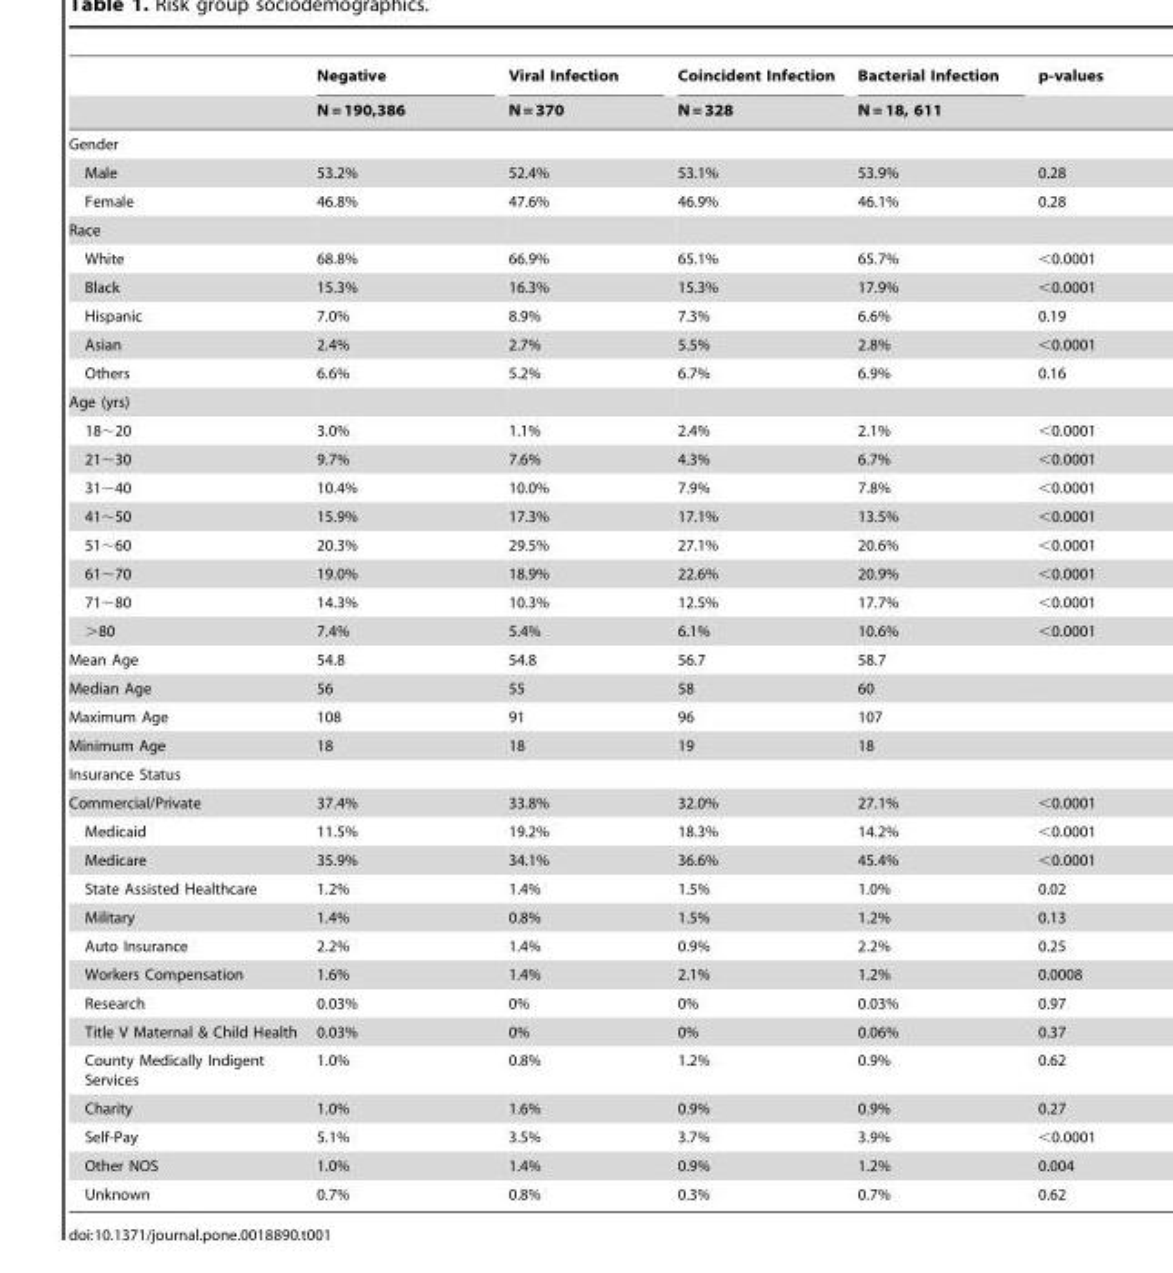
<table><thead><tr><td rowspan="2"></td><td rowspan="2">Negative N = 190,386</td><td rowspan="2">Viral Infection N = 370</td><td rowspan="2">Coincident Infection N = 328</td><td rowspan="2">Bacterial Infection N = 18, 611</td><td rowspan="2">p-values</td></tr><tr></tr></thead><tbody><tr><td colspan="6">Gender</td></tr><tr><td>Male</td><td>53.2%</td><td>52.4%</td><td>53.1%</td><td>53.9%</td><td>0.28</td></tr><tr><td>Female</td><td>46.8%</td><td>47.6%</td><td>46.9%</td><td>46.1%</td><td>0.28</td></tr><tr><td colspan="6">Race</td></tr><tr><td>White</td><td>68.8%</td><td>66.9%</td><td>65.1%</td><td>65.7%</td><td>&lt;0.0001</td></tr><tr><td>Black</td><td>15.3%</td><td>16.3%</td><td>15.3%</td><td>17.9%</td><td>&lt;0.0001</td></tr><tr><td>Hispanic</td><td>7.0%</td><td>8.9%</td><td>7.3%</td><td>6.6%</td><td>0.19</td></tr><tr><td>Asian</td><td>2.4%</td><td>2.7%</td><td>5.5%</td><td>2.8%</td><td>&lt;0.0001</td></tr><tr><td>Others</td><td>6.6%</td><td>5.2%</td><td>6.7%</td><td>6.9%</td><td>0.16</td></tr><tr><td colspan="6">Age (yrs)</td></tr><tr><td>18∼20</td><td>3.0%</td><td>1.1%</td><td>2.4%</td><td>2.1%</td><td>&lt;0.0001</td></tr><tr><td>21∼30</td><td>9.7%</td><td>7.6%</td><td>4.3%</td><td>6.7%</td><td>&lt;0.0001</td></tr><tr><td>31∼40</td><td>10.4%</td><td>10.0%</td><td>7.9%</td><td>7.8%</td><td>&lt;0.0001</td></tr><tr><td>41∼50</td><td>15.9%</td><td>17.3%</td><td>17.1%</td><td>13.5%</td><td>&lt;0.0001</td></tr><tr><td>51∼60</td><td>20.3%</td><td>29.5%</td><td>27.1%</td><td>20.6%</td><td>&lt;0.0001</td></tr><tr><td>61∼70</td><td>19.0%</td><td>18.9%</td><td>22.6%</td><td>20.9%</td><td>&lt;0.0001</td></tr><tr><td>71∼80</td><td>14.3%</td><td>10.3%</td><td>12.5%</td><td>17.7%</td><td>&lt;0.0001</td></tr><tr><td>&gt;80</td><td>7.4%</td><td>5.4%</td><td>6.1%</td><td>10.6%</td><td>&lt;0.0001</td></tr><tr><td>Mean Age</td><td>54.8</td><td>54.8</td><td>56.7</td><td>58.7</td><td></td></tr><tr><td>Median Age</td><td>56</td><td>55</td><td>58</td><td>60</td><td></td></tr><tr><td>Maximum Age</td><td>108</td><td>91</td><td>96</td><td>107</td><td></td></tr><tr><td>Minimum Age</td><td>18</td><td>18</td><td>19</td><td>18</td><td></td></tr><tr><td colspan="6">Insurance Status</td></tr><tr><td>Commercial/Private</td><td>37.4%</td><td>33.8%</td><td>32.0%</td><td>27.1%</td><td>&lt;0.0001</td></tr><tr><td>Medicaid</td><td>11.5%</td><td>19.2%</td><td>18.3%</td><td>14.2%</td><td>&lt;0.0001</td></tr><tr><td>Medicare</td><td>35.9%</td><td>34.1%</td><td>36.6%</td><td>45.4%</td><td>&lt;0.0001</td></tr><tr><td>State Assisted Healthcare</td><td>1.2%</td><td>1.4%</td><td>1.5%</td><td>1.0%</td><td>0.02</td></tr><tr><td>Military</td><td>1.4%</td><td>0.8%</td><td>1.5%</td><td>1.2%</td><td>0.13</td></tr><tr><td>Auto Insurance</td><td>2.2%</td><td>1.4%</td><td>0.9%</td><td>2.2%</td><td>0.25</td></tr><tr><td>Workers Compensation</td><td>1.6%</td><td>1.4%</td><td>2.1%</td><td>1.2%</td><td>0.0008</td></tr><tr><td>Research</td><td>0.03%</td><td>0%</td><td>0%</td><td>0.03%</td><td>0.97</td></tr><tr><td>Title V Maternal &amp; Child Health</td><td>0.03%</td><td>0%</td><td>0%</td><td>0.06%</td><td>0.37</td></tr><tr><td>County Medically Indigent Services</td><td>1.0%</td><td>0.8%</td><td>1.2%</td><td>0.9%</td><td>0.62</td></tr><tr><td>Charity</td><td>1.0%</td><td>1.6%</td><td>0.9%</td><td>0.9%</td><td>0.27</td></tr><tr><td>Self-Pay</td><td>5.1%</td><td>3.5%</td><td>3.7%</td><td>3.9%</td><td>&lt;0.0001</td></tr><tr><td>Other NOS</td><td>1.0%</td><td>1.4%</td><td>0.9%</td><td>1.2%</td><td>0.004</td></tr><tr><td>Unknown</td><td>0.7%</td><td>0.8%</td><td>0.3%</td><td>0.7%</td><td>0.62</td></tr></tbody></table>